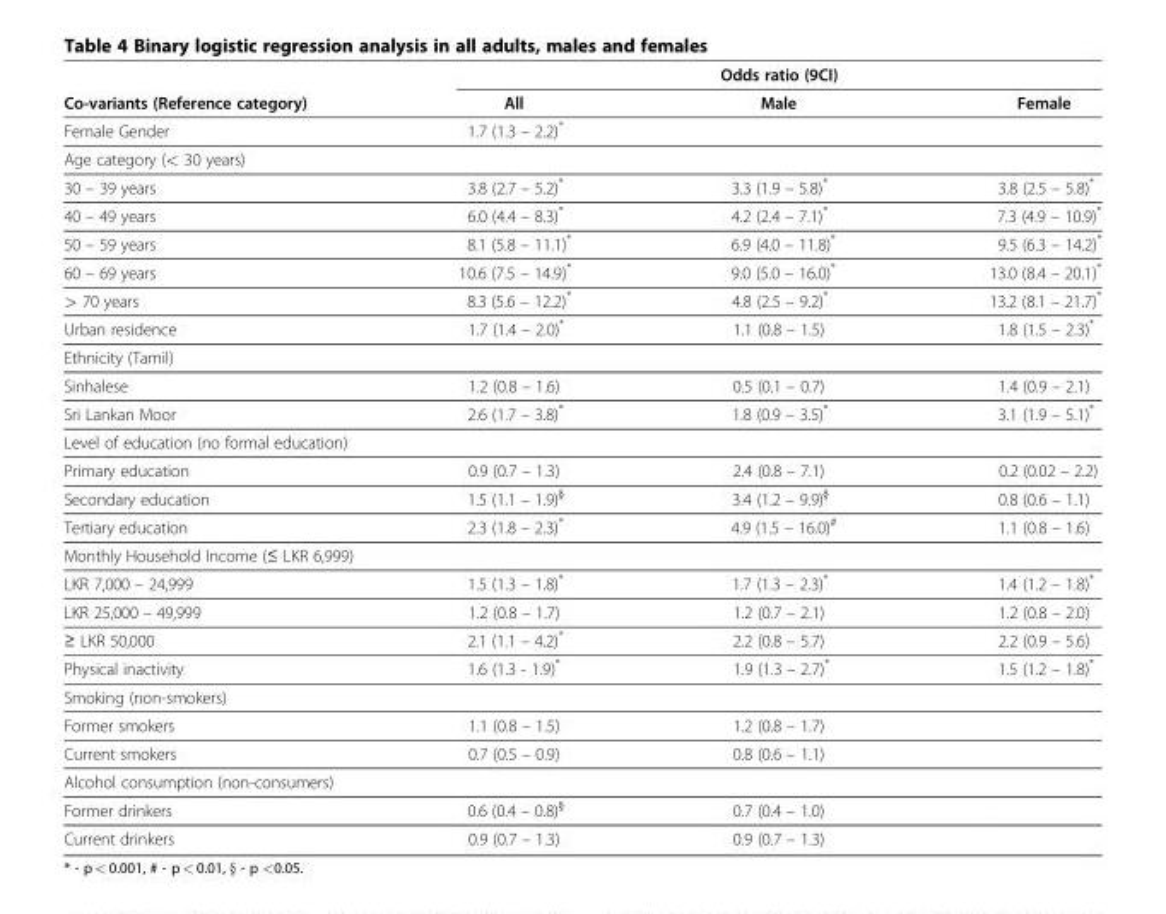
<table><thead><tr><td rowspan="2">Co-variants (Reference category)</td><td colspan="3">Odds ratio (9CI)</td></tr><tr><td>All</td><td>Male</td><td>Female</td></tr></thead><tbody><tr><td>Female Gender</td><td>1.7 (1.3 – 2.2)*</td><td></td><td></td></tr><tr><td colspan="4">Age category (&lt; 30 years)</td></tr><tr><td>30 – 39 years</td><td>3.8 (2.7 – 5.2)*</td><td>3.3 (1.9 – 5.8)*</td><td>3.8 (2.5 – 5.8)*</td></tr><tr><td>40 – 49 years</td><td>6.0 (4.4 – 8.3)*</td><td>4.2 (2.4 – 7.1)*</td><td>7.3 (4.9 – 10.9)*</td></tr><tr><td>50 – 59 years</td><td>8.1 (5.8 – 11.1)*</td><td>6.9 (4.0 – 11.8)*</td><td>9.5 (6.3 – 14.2)*</td></tr><tr><td>60 – 69 years</td><td>10.6 (7.5 – 14.9)*</td><td>9.0 (5.0 – 16.0)*</td><td>13.0 (8.4 – 20.1)*</td></tr><tr><td>&gt; 70 years</td><td>8.3 (5.6 – 12.2)*</td><td>4.8 (2.5 – 9.2)*</td><td>13.2 (8.1 – 21.7)*</td></tr><tr><td>Urban residence</td><td>1.7 (1.4 – 2.0)*</td><td>1.1 (0.8 – 1.5)</td><td>1.8 (1.5 – 2.3)*</td></tr><tr><td colspan="4">Ethnicity (Tamil)</td></tr><tr><td>Sinhalese</td><td>1.2 (0.8 – 1.6)</td><td>0.5 (0.1 – 0.7)</td><td>1.4 (0.9 – 2.1)</td></tr><tr><td>Sri Lankan Moor</td><td>2.6 (1.7 – 3.8)*</td><td>1.8 (0.9 – 3.5)*</td><td>3.1 (1.9 – 5.1)*</td></tr><tr><td colspan="4">Level of education (no formal education)</td></tr><tr><td>Primary education</td><td>0.9 (0.7 – 1.3)</td><td>2.4 (0.8 – 7.1)</td><td>0.2 (0.02 – 2.2)</td></tr><tr><td>Secondary education</td><td>1.5 (1.1 – 1.9)<sup>§</sup></td><td>3.4 (1.2 – 9.9)<sup>§</sup></td><td>0.8 (0.6 – 1.1)</td></tr><tr><td>Tertiary education</td><td>2.3 (1.8 – 2.3)*</td><td>4.9 (1.5 – 16.0)<sup>#</sup></td><td>1.1 (0.8 – 1.6)</td></tr><tr><td colspan="4">Monthly Household Income (≤ LKR 6,999)</td></tr><tr><td>LKR 7,000 – 24,999</td><td>1.5 (1.3 – 1.8)*</td><td>1.7 (1.3 – 2.3)*</td><td>1.4 (1.2 – 1.8)*</td></tr><tr><td>LKR 25,000 – 49,999</td><td>1.2 (0.8 – 1.7)</td><td>1.2 (0.7 – 2.1)</td><td>1.2 (0.8 – 2.0)</td></tr><tr><td>≥ LKR 50,000</td><td>2.1 (1.1 – 4.2)*</td><td>2.2 (0.8 – 5.7)</td><td>2.2 (0.9 – 5.6)</td></tr><tr><td>Physical inactivity</td><td>1.6 (1.3 - 1.9)*</td><td>1.9 (1.3 – 2.7)*</td><td>1.5 (1.2 – 1.8)*</td></tr><tr><td colspan="4">Smoking (non-smokers)</td></tr><tr><td>Former smokers</td><td>1.1 (0.8 – 1.5)</td><td>1.2 (0.8 – 1.7)</td><td></td></tr><tr><td>Current smokers</td><td>0.7 (0.5 – 0.9)</td><td>0.8 (0.6 – 1.1)</td><td></td></tr><tr><td colspan="4">Alcohol consumption (non-consumers)</td></tr><tr><td>Former drinkers</td><td>0.6 (0.4 – 0.8)<sup>§</sup></td><td>0.7 (0.4 – 1.0)</td><td></td></tr><tr><td>Current drinkers</td><td>0.9 (0.7 – 1.3)</td><td>0.9 (0.7 – 1.3)</td><td></td></tr></tbody></table>